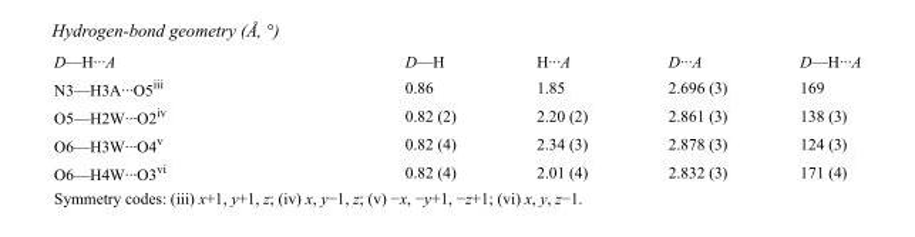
<table><tbody><tr><td>D—H···A</td><td>D—H</td><td>H···A</td><td>D···A</td><td>D—H···A</td></tr><tr><td>N3—H3A···O5<sup>iii</sup></td><td>0.86</td><td>1.85</td><td>2.696 (3)</td><td>169</td></tr><tr><td>O5—H2W···O2<sup>iv</sup></td><td>0.82 (2)</td><td>2.20 (2)</td><td>2.861 (3)</td><td>138 (3)</td></tr><tr><td>O6—H3W···O4<sup>v</sup></td><td>0.82 (4)</td><td>2.34 (3)</td><td>2.878 (3)</td><td>124 (3)</td></tr><tr><td>O6—H4W···O3<sup>vi</sup></td><td>0.82 (4)</td><td>2.01 (4)</td><td>2.832 (3)</td><td>171 (4)</td></tr></tbody></table>